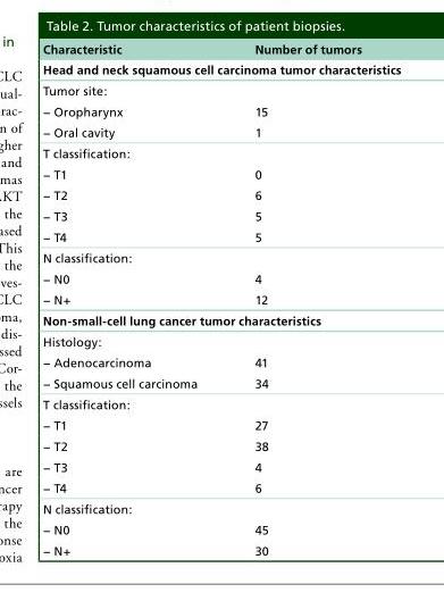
<table><thead><tr><td>Characteristic</td><td>Number of tumors</td></tr></thead><tbody><tr><td colspan="2">Head and neck squamous cell carcinoma tumor characteristics</td></tr><tr><td colspan="2">Tumor site:</td></tr><tr><td>− Oropharynx</td><td>15</td></tr><tr><td>− Oral cavity</td><td>1</td></tr><tr><td colspan="2">T classification:</td></tr><tr><td>− T1</td><td>0</td></tr><tr><td>− T2</td><td>6</td></tr><tr><td>− T3</td><td>5</td></tr><tr><td>− T4</td><td>5</td></tr><tr><td colspan="2">N classification:</td></tr><tr><td>− N0</td><td>4</td></tr><tr><td>− N+</td><td>12</td></tr><tr><td colspan="2">Non-small-cell lung cancer tumor characteristics</td></tr><tr><td colspan="2">Histology:</td></tr><tr><td>− Adenocarcinoma</td><td>41</td></tr><tr><td>− Squamous cell carcinoma</td><td>34</td></tr><tr><td colspan="2">T classification:</td></tr><tr><td>− T1</td><td>27</td></tr><tr><td>− T2</td><td>38</td></tr><tr><td>− T3</td><td>4</td></tr><tr><td>− T4</td><td>6</td></tr><tr><td colspan="2">N classification:</td></tr><tr><td>− N0</td><td>45</td></tr><tr><td>− N+</td><td>30</td></tr></tbody></table>